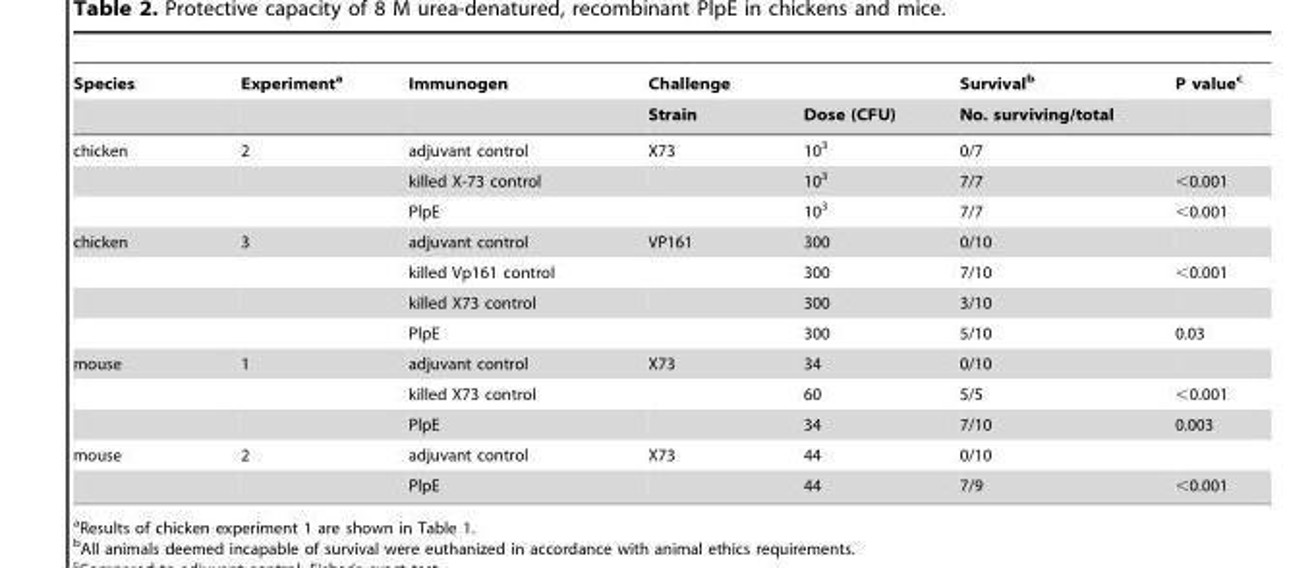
<table><thead><tr><td rowspan="2">Species</td><td rowspan="2">Experiment<sup>a</sup></td><td rowspan="2">Immunogen</td><td colspan="2">Challenge</td><td rowspan="2">Survival<sup>b</sup> No. surviving/total</td><td rowspan="2">P value<sup>c</sup></td></tr><tr><td>Strain</td><td>Dose (CFU)</td></tr></thead><tbody><tr><td rowspan="3">chicken</td><td>2</td><td>adjuvant control</td><td>X73</td><td>10<sup>3</sup></td><td>0/7</td><td></td></tr><tr><td></td><td>killed X-73 control</td><td></td><td>10<sup>3</sup></td><td>7/7</td><td>&lt;0.001</td></tr><tr><td></td><td>PlpE</td><td></td><td>10<sup>3</sup></td><td>7/7</td><td>&lt;0.001</td></tr><tr><td rowspan="4">chicken</td><td>3</td><td>adjuvant control</td><td>VP161</td><td>300</td><td>0/10</td><td></td></tr><tr><td></td><td>killed Vp161 control</td><td></td><td>300</td><td>7/10</td><td>&lt;0.001</td></tr><tr><td></td><td>killed X73 control</td><td></td><td>300</td><td>3/10</td><td></td></tr><tr><td></td><td>PlpE</td><td></td><td>300</td><td>5/10</td><td>0.03</td></tr><tr><td rowspan="3">mouse</td><td>1</td><td>adjuvant control</td><td>X73</td><td>34</td><td>0/10</td><td></td></tr><tr><td></td><td>killed X73 control</td><td></td><td>60</td><td>5/5</td><td>&lt;0.001</td></tr><tr><td></td><td>PlpE</td><td></td><td>34</td><td>7/10</td><td>0.003</td></tr><tr><td rowspan="2">mouse</td><td>2</td><td>adjuvant control</td><td>X73</td><td>44</td><td>0/10</td><td></td></tr><tr><td></td><td>PlpE</td><td></td><td>44</td><td>7/9</td><td>&lt;0.001</td></tr></tbody></table>